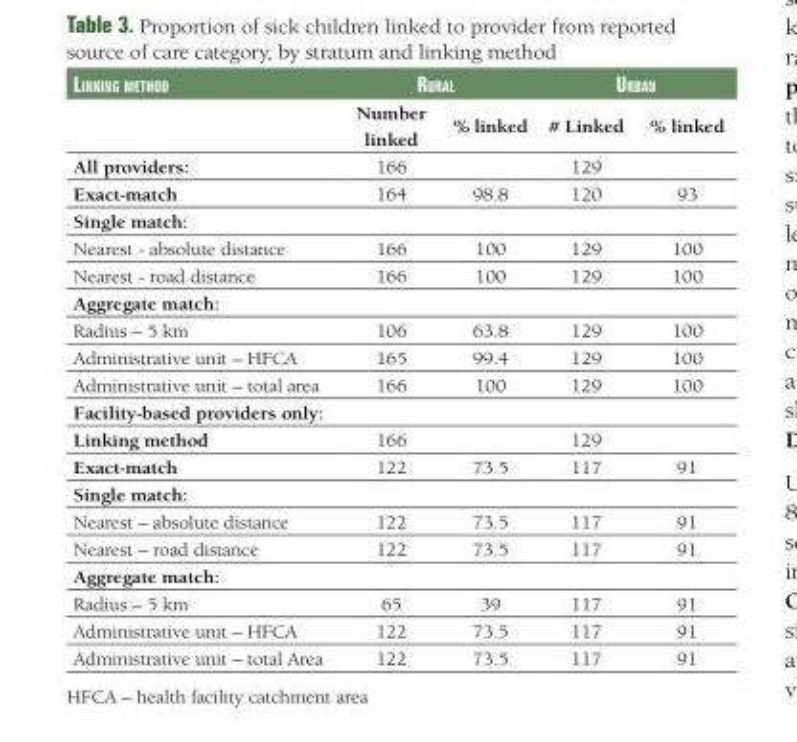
<table><thead><tr><td rowspan="2">Linking method</td><td colspan="2">ruraL</td><td colspan="2">urban</td></tr><tr><td>Number linked</td><td>% linked</td><td># Linked</td><td>% linked</td></tr></thead><tbody><tr><td>All providers:</td><td>166</td><td></td><td>129</td><td></td></tr><tr><td>Exact-match</td><td>164</td><td>98.8</td><td>120</td><td>93</td></tr><tr><td colspan="5">Single match:</td></tr><tr><td>Nearest - absolute distance</td><td>166</td><td>100</td><td>129</td><td>100</td></tr><tr><td>Nearest - road distance</td><td>166</td><td>100</td><td>129</td><td>100</td></tr><tr><td colspan="5">Aggregate match:</td></tr><tr><td>Radius – 5 km</td><td>106</td><td>63.8</td><td>129</td><td>100</td></tr><tr><td>Administrative unit – HFCA</td><td>165</td><td>99.4</td><td>129</td><td>100</td></tr><tr><td>Administrative unit – total area</td><td>166</td><td>100</td><td>129</td><td>100</td></tr><tr><td colspan="5">Facility-based providers only:</td></tr><tr><td>Linking method</td><td>166</td><td></td><td>129</td><td></td></tr><tr><td>Exact-match</td><td>122</td><td>73.5</td><td>117</td><td>91</td></tr><tr><td colspan="5">Single match:</td></tr><tr><td>Nearest – absolute distance</td><td>122</td><td>73.5</td><td>117</td><td>91</td></tr><tr><td>Nearest – road distance</td><td>122</td><td>73.5</td><td>117</td><td>91</td></tr><tr><td colspan="5">Aggregate match:</td></tr><tr><td>Radius – 5 km</td><td>65</td><td>39</td><td>117</td><td>91</td></tr><tr><td>Administrative unit – HFCA</td><td>122</td><td>73.5</td><td>117</td><td>91</td></tr><tr><td>Administrative unit – total Area</td><td>122</td><td>73.5</td><td>117</td><td>91</td></tr></tbody></table>